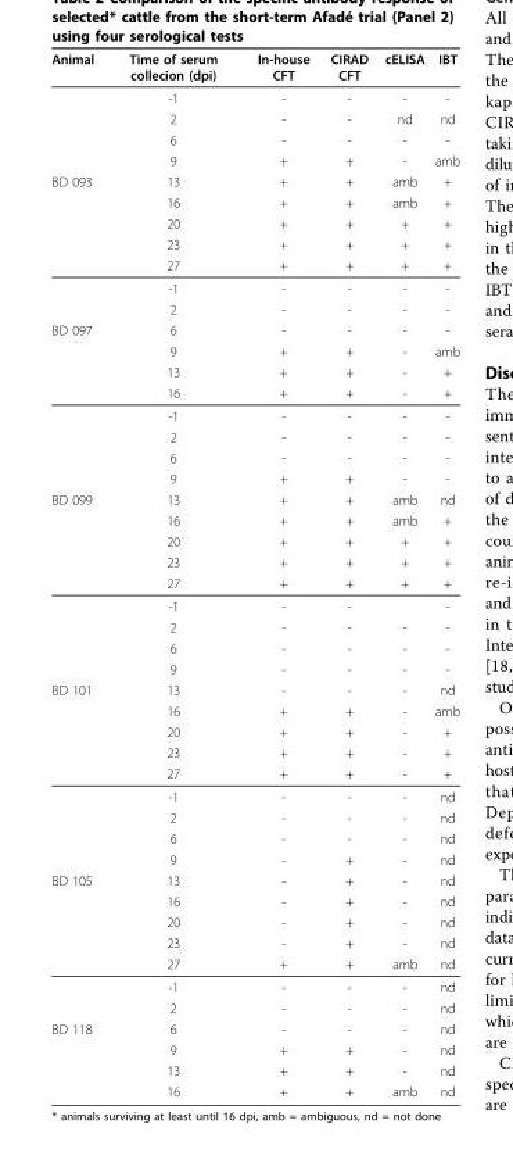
<table><thead><tr><td>Animal</td><td>Time of serum collecion (dpi)</td><td>In-house CFT</td><td>CIRAD CFT</td><td>cELISA</td><td>IBT</td></tr></thead><tbody><tr><td></td><td>-1</td><td>-</td><td>-</td><td>-</td><td>-</td></tr><tr><td></td><td>2</td><td>-</td><td>-</td><td>nd</td><td>nd</td></tr><tr><td></td><td>6</td><td>-</td><td>-</td><td>-</td><td>-</td></tr><tr><td></td><td>9</td><td>+</td><td>+</td><td>-</td><td>amb</td></tr><tr><td rowspan="7">BD 093</td><td>13</td><td>+</td><td>+</td><td>amb</td><td>+</td></tr><tr><td>16</td><td>+</td><td>+</td><td>amb</td><td>+</td></tr><tr><td>20</td><td>+</td><td>+</td><td>+</td><td>+</td></tr><tr><td>23</td><td>+</td><td>+</td><td>+</td><td>+</td></tr><tr><td>27</td><td>+</td><td>+</td><td>+</td><td>+</td></tr><tr><td>-1</td><td>-</td><td>-</td><td>-</td><td>-</td></tr><tr><td>2</td><td>-</td><td>-</td><td>-</td><td>-</td></tr><tr><td rowspan="8">BD 097</td><td>6</td><td>-</td><td>-</td><td>-</td><td>-</td></tr><tr><td>9</td><td>+</td><td>+</td><td>-</td><td>amb</td></tr><tr><td>13</td><td>+</td><td>+</td><td>-</td><td>+</td></tr><tr><td>16</td><td>+</td><td>+</td><td>-</td><td>+</td></tr><tr><td>-1</td><td>-</td><td>-</td><td>-</td><td>-</td></tr><tr><td>2</td><td>-</td><td>-</td><td>-</td><td>-</td></tr><tr><td>6</td><td>-</td><td>-</td><td>-</td><td>-</td></tr><tr><td>9</td><td>+</td><td>+</td><td>-</td><td>-</td></tr><tr><td rowspan="9">BD 099</td><td>13</td><td>+</td><td>+</td><td>amb</td><td>nd</td></tr><tr><td>16</td><td>+</td><td>+</td><td>amb</td><td>+</td></tr><tr><td>20</td><td>+</td><td>+</td><td>+</td><td>+</td></tr><tr><td>23</td><td>+</td><td>+</td><td>+</td><td>+</td></tr><tr><td>27</td><td>+</td><td>+</td><td>+</td><td>+</td></tr><tr><td>-1</td><td>-</td><td>-</td><td></td><td>-</td></tr><tr><td>2</td><td>-</td><td>-</td><td>-</td><td>-</td></tr><tr><td>6</td><td>-</td><td>-</td><td>-</td><td>-</td></tr><tr><td>9</td><td>-</td><td>-</td><td>-</td><td>-</td></tr><tr><td rowspan="9">BD 101</td><td>13</td><td>-</td><td>-</td><td>-</td><td>nd</td></tr><tr><td>16</td><td>+</td><td>+</td><td>-</td><td>amb</td></tr><tr><td>20</td><td>+</td><td>+</td><td>-</td><td>+</td></tr><tr><td>23</td><td>+</td><td>+</td><td>-</td><td>+</td></tr><tr><td>27</td><td>+</td><td>+</td><td>-</td><td>+</td></tr><tr><td>-1</td><td>-</td><td>-</td><td>-</td><td>nd</td></tr><tr><td>2</td><td>-</td><td>-</td><td>-</td><td>nd</td></tr><tr><td>6</td><td>-</td><td>-</td><td>-</td><td>nd</td></tr><tr><td>9</td><td>-</td><td>+</td><td>-</td><td>nd</td></tr><tr><td rowspan="7">BD 105</td><td>13</td><td>-</td><td>+</td><td>-</td><td>nd</td></tr><tr><td>16</td><td>-</td><td>+</td><td>-</td><td>nd</td></tr><tr><td>20</td><td>-</td><td>+</td><td>-</td><td>nd</td></tr><tr><td>23</td><td>-</td><td>+</td><td>-</td><td>nd</td></tr><tr><td>27</td><td>+</td><td>+</td><td>amb</td><td>nd</td></tr><tr><td>-1</td><td>-</td><td>-</td><td>-</td><td>nd</td></tr><tr><td>2</td><td>-</td><td>-</td><td>-</td><td>nd</td></tr><tr><td rowspan="4">BD 118</td><td>6</td><td>-</td><td>-</td><td>-</td><td>nd</td></tr><tr><td>9</td><td>+</td><td>+</td><td>-</td><td>nd</td></tr><tr><td>13</td><td>+</td><td>+</td><td>-</td><td>nd</td></tr><tr><td>16</td><td>+</td><td>+</td><td>amb</td><td>nd</td></tr></tbody></table>